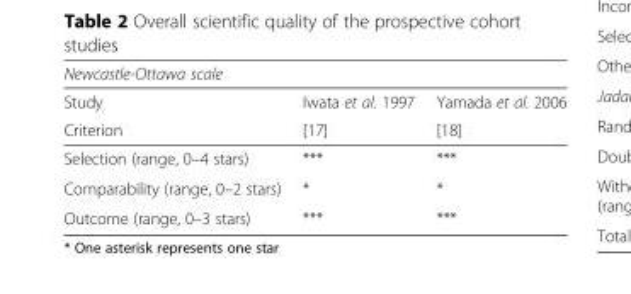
<table><thead><tr><td colspan="3">Newcastle-Ottawa scale</td></tr><tr><td rowspan="2">Study Criterion</td><td rowspan="2">Iwata et al. 1997 [17]</td><td rowspan="2">Yamada et al. 2006 [18]</td></tr><tr></tr></thead><tbody><tr><td>Selection (range, 0–4 stars)</td><td>***</td><td>***</td></tr><tr><td>Comparability (range, 0–2 stars)</td><td>*</td><td>*</td></tr><tr><td>Outcome (range, 0–3 stars)</td><td>***</td><td>***</td></tr></tbody></table>